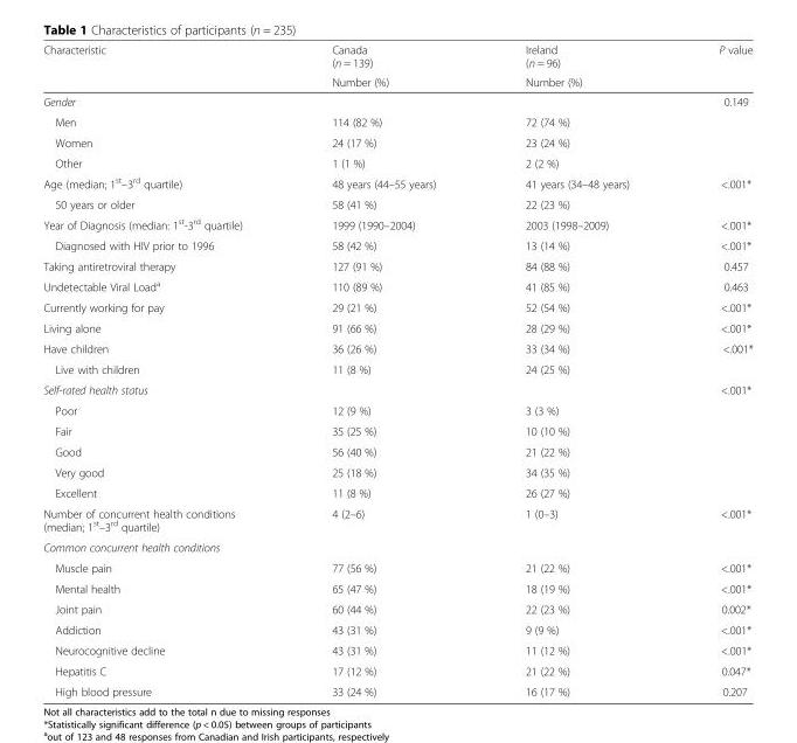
<table><thead><tr><td rowspan="2">Characteristic</td><td rowspan="2">Canada (n = 139) Number (%)</td><td rowspan="2">Ireland (n = 96) Number (%)</td><td rowspan="2">P value</td></tr><tr></tr></thead><tbody><tr><td>Gender</td><td></td><td></td><td>0.149</td></tr><tr><td>Men</td><td>114 (82 %)</td><td>72 (74 %)</td><td></td></tr><tr><td>Women</td><td>24 (17 %)</td><td>23 (24 %)</td><td></td></tr><tr><td>Other</td><td>1 (1 %)</td><td>2 (2 %)</td><td></td></tr><tr><td>Age (median; 1<sup>st</sup>–3<sup>rd</sup> quartile)</td><td>48 years (44–55 years)</td><td>41 years (34–48 years)</td><td rowspan="2">&lt;.001*</td></tr><tr><td>50 years or older</td><td>58 (41 %)</td><td>22 (23 %)</td></tr><tr><td>Year of Diagnosis (median: 1<sup>st</sup>-3<sup>rd</sup> quartile)</td><td>1999 (1990–2004)</td><td>2003 (1998–2009)</td><td>&lt;.001*</td></tr><tr><td>Diagnosed with HIV prior to 1996</td><td>58 (42 %)</td><td>13 (14 %)</td><td>&lt;.001*</td></tr><tr><td>Taking antiretroviral therapy</td><td>127 (91 %)</td><td>84 (88 %)</td><td>0.457</td></tr><tr><td>Undetectable Viral Load<sup>a</sup></td><td>110 (89 %)</td><td>41 (85 %)</td><td>0.463</td></tr><tr><td>Currently working for pay</td><td>29 (21 %)</td><td>52 (54 %)</td><td>&lt;.001*</td></tr><tr><td>Living alone</td><td>91 (66 %)</td><td>28 (29 %)</td><td>&lt;.001*</td></tr><tr><td>Have children</td><td>36 (26 %)</td><td>33 (34 %)</td><td rowspan="2">&lt;.001*</td></tr><tr><td>Live with children</td><td>11 (8 %)</td><td>24 (25 %)</td></tr><tr><td colspan="3">Self-rated health status</td><td rowspan="6">&lt;.001*</td></tr><tr><td>Poor</td><td>12 (9 %)</td><td>3 (3 %)</td></tr><tr><td>Fair</td><td>35 (25 %)</td><td>10 (10 %)</td></tr><tr><td>Good</td><td>56 (40 %)</td><td>21 (22 %)</td></tr><tr><td>Very good</td><td>25 (18 %)</td><td>34 (35 %)</td></tr><tr><td>Excellent</td><td>11 (8 %)</td><td>26 (27 %)</td></tr><tr><td>Number of concurrent health conditions (median; 1<sup>st</sup>–3<sup>rd</sup> quartile)</td><td>4 (2–6)</td><td>1 (0–3)</td><td>&lt;.001*</td></tr><tr><td colspan="4">Common concurrent health conditions</td></tr><tr><td>Muscle pain</td><td>77 (56 %)</td><td>21 (22 %)</td><td>&lt;.001*</td></tr><tr><td>Mental health</td><td>65 (47 %)</td><td>18 (19 %)</td><td>&lt;.001*</td></tr><tr><td>Joint pain</td><td>60 (44 %)</td><td>22 (23 %)</td><td>0.002*</td></tr><tr><td>Addiction</td><td>43 (31 %)</td><td>9 (9 %)</td><td>&lt;.001*</td></tr><tr><td>Neurocognitive decline</td><td>43 (31 %)</td><td>11 (12 %)</td><td>&lt;.001*</td></tr><tr><td>Hepatitis C</td><td>17 (12 %)</td><td>21 (22 %)</td><td>0.047*</td></tr><tr><td>High blood pressure</td><td>33 (24 %)</td><td>16 (17 %)</td><td>0.207</td></tr></tbody></table>